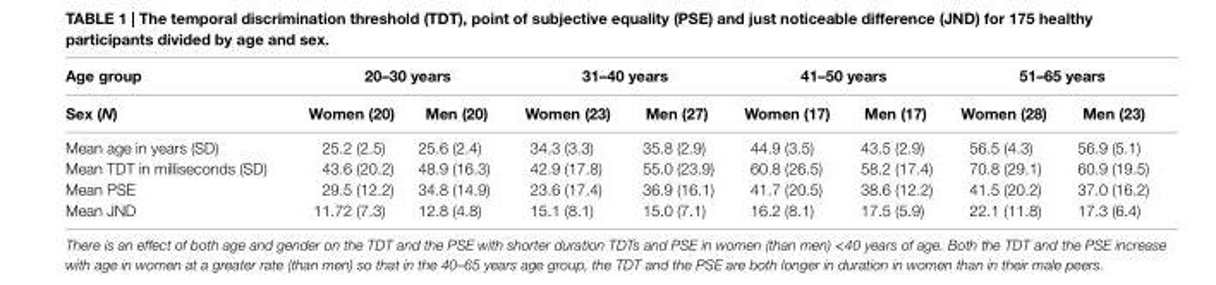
<table><thead><tr><td rowspan="2">age group sex (N)</td><td colspan="2">20–30 years</td><td colspan="2">31–40 years</td><td colspan="2">41–50 years</td><td colspan="2">51–65 years</td></tr><tr><td>Women (20)</td><td>Men (20)</td><td>Women (23)</td><td>Men (27)</td><td>Women (17)</td><td>Men (17)</td><td>Women (28)</td><td>Men (23)</td></tr></thead><tbody><tr><td>Mean age in years (SD)</td><td>25.2 (2.5)</td><td>25.6 (2.4)</td><td>34.3 (3.3)</td><td>35.8 (2.9)</td><td>44.9 (3.5)</td><td>43.5 (2.9)</td><td>56.5 (4.3)</td><td>56.9 (5.1)</td></tr><tr><td>Mean TDT in milliseconds (SD)</td><td>43.6 (20.2)</td><td>48.9 (16.3)</td><td>42.9 (17.8)</td><td>55.0 (23.9)</td><td>60.8 (26.5)</td><td>58.2 (17.4)</td><td>70.8 (29.1)</td><td>60.9 (19.5)</td></tr><tr><td>Mean PSE</td><td>29.5 (12.2)</td><td>34.8 (14.9)</td><td>23.6 (17.4)</td><td>36.9 (16.1)</td><td>41.7 (20.5)</td><td>38.6 (12.2)</td><td>41.5 (20.2)</td><td>37.0 (16.2)</td></tr><tr><td>Mean JND</td><td>11.72 (7.3)</td><td>12.8 (4.8)</td><td>15.1 (8.1)</td><td>15.0 (7.1)</td><td>16.2 (8.1)</td><td>17.5 (5.9)</td><td>22.1 (11.8)</td><td>17.3 (6.4)</td></tr></tbody></table>